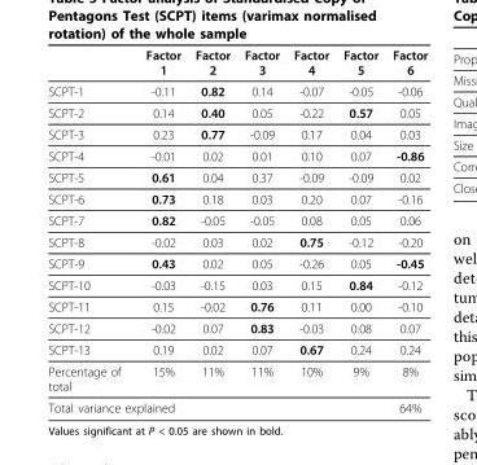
<table><thead><tr><td></td><td>Factor 1</td><td>Factor 2</td><td>Factor 3</td><td>Factor 4</td><td>Factor 5</td><td>Factor 6</td></tr></thead><tbody><tr><td>SCPT-1</td><td>-0.11</td><td>0.82</td><td>0.14</td><td>-0.07</td><td>-0.05</td><td>-0.06</td></tr><tr><td>SCPT-2</td><td>0.14</td><td>0.40</td><td>0.05</td><td>-0.22</td><td>0.57</td><td>0.05</td></tr><tr><td>SCPT-3</td><td>0.23</td><td>0.77</td><td>-0.09</td><td>0.17</td><td>0.04</td><td>0.03</td></tr><tr><td>SCPT-4</td><td>-0.01</td><td>0.02</td><td>0.01</td><td>0.10</td><td>0.07</td><td>-0.86</td></tr><tr><td>SCPT-5</td><td>0.61</td><td>0.04</td><td>0.37</td><td>-0.09</td><td>-0.09</td><td>0.02</td></tr><tr><td>SCPT-6</td><td>0.73</td><td>0.18</td><td>0.03</td><td>0.20</td><td>0.07</td><td>-0.16</td></tr><tr><td>SCPT-7</td><td>0.82</td><td>-0.05</td><td>-0.05</td><td>0.08</td><td>0.05</td><td>0.06</td></tr><tr><td>SCPT-8</td><td>-0.02</td><td>0.03</td><td>0.02</td><td>0.75</td><td>-0.12</td><td>-0.20</td></tr><tr><td>SCPT-9</td><td>0.43</td><td>0.02</td><td>0.05</td><td>-0.26</td><td>0.05</td><td>-0.45</td></tr><tr><td>SCPT-10</td><td>-0.03</td><td>-0.15</td><td>0.03</td><td>0.15</td><td>0.84</td><td>-0.12</td></tr><tr><td>SCPT-11</td><td>0.15</td><td>-0.02</td><td>0.76</td><td>0.11</td><td>0.00</td><td>-0.10</td></tr><tr><td>SCPT-12</td><td>-0.02</td><td>0.07</td><td>0.83</td><td>-0.03</td><td>0.08</td><td>0.07</td></tr><tr><td>SCPT-13</td><td>0.19</td><td>0.02</td><td>0.07</td><td>0.67</td><td>0.24</td><td>0.24</td></tr><tr><td>Percentage of total</td><td>15%</td><td>11%</td><td>11%</td><td>10%</td><td>9%</td><td>8%</td></tr><tr><td colspan="6">Total variance explained</td><td>64%</td></tr></tbody></table>